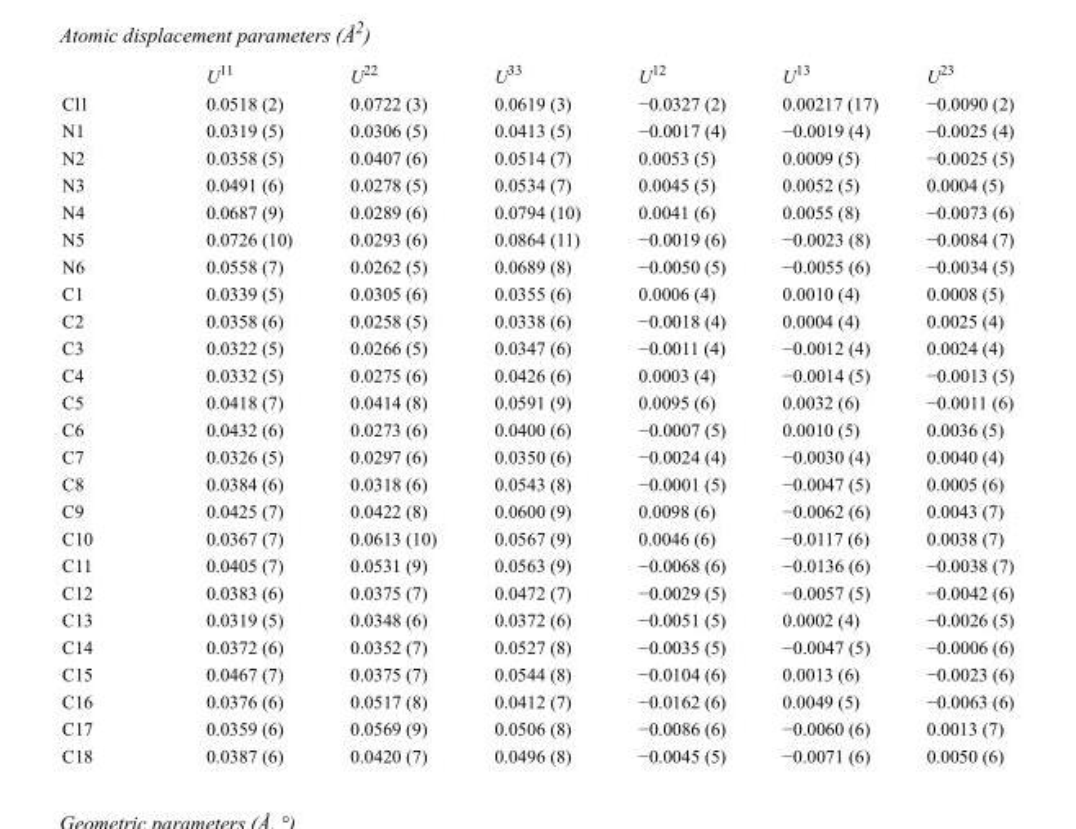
<table><thead><tr><td></td><td>U<sup>11</sup></td><td>U<sup>22</sup></td><td>U<sup>33</sup></td><td>U<sup>12</sup></td><td>U<sup>13</sup></td><td>U<sup>23</sup></td></tr></thead><tbody><tr><td>Cl1</td><td>0.0518 (2)</td><td>0.0722 (3)</td><td>0.0619 (3)</td><td>−0.0327 (2)</td><td>0.00217 (17)</td><td>−0.0090 (2)</td></tr><tr><td>N1</td><td>0.0319 (5)</td><td>0.0306 (5)</td><td>0.0413 (5)</td><td>−0.0017 (4)</td><td>−0.0019 (4)</td><td>−0.0025 (4)</td></tr><tr><td>N2</td><td>0.0358 (5)</td><td>0.0407 (6)</td><td>0.0514 (7)</td><td>0.0053 (5)</td><td>0.0009 (5)</td><td>−0.0025 (5)</td></tr><tr><td>N3</td><td>0.0491 (6)</td><td>0.0278 (5)</td><td>0.0534 (7)</td><td>0.0045 (5)</td><td>0.0052 (5)</td><td>0.0004 (5)</td></tr><tr><td>N4</td><td>0.0687 (9)</td><td>0.0289 (6)</td><td>0.0794 (10)</td><td>0.0041 (6)</td><td>0.0055 (8)</td><td>−0.0073 (6)</td></tr><tr><td>N5</td><td>0.0726 (10)</td><td>0.0293 (6)</td><td>0.0864 (11)</td><td>−0.0019 (6)</td><td>−0.0023 (8)</td><td>−0.0084 (7)</td></tr><tr><td>N6</td><td>0.0558 (7)</td><td>0.0262 (5)</td><td>0.0689 (8)</td><td>−0.0050 (5)</td><td>−0.0055 (6)</td><td>−0.0034 (5)</td></tr><tr><td>C1</td><td>0.0339 (5)</td><td>0.0305 (6)</td><td>0.0355 (6)</td><td>0.0006 (4)</td><td>0.0010 (4)</td><td>0.0008 (5)</td></tr><tr><td>C2</td><td>0.0358 (6)</td><td>0.0258 (5)</td><td>0.0338 (6)</td><td>−0.0018 (4)</td><td>0.0004 (4)</td><td>0.0025 (4)</td></tr><tr><td>C3</td><td>0.0322 (5)</td><td>0.0266 (5)</td><td>0.0347 (6)</td><td>−0.0011 (4)</td><td>−0.0012 (4)</td><td>0.0024 (4)</td></tr><tr><td>C4</td><td>0.0332 (5)</td><td>0.0275 (6)</td><td>0.0426 (6)</td><td>0.0003 (4)</td><td>−0.0014 (5)</td><td>−0.0013 (5)</td></tr><tr><td>C5</td><td>0.0418 (7)</td><td>0.0414 (8)</td><td>0.0591 (9)</td><td>0.0095 (6)</td><td>0.0032 (6)</td><td>−0.0011 (6)</td></tr><tr><td>C6</td><td>0.0432 (6)</td><td>0.0273 (6)</td><td>0.0400 (6)</td><td>−0.0007 (5)</td><td>0.0010 (5)</td><td>0.0036 (5)</td></tr><tr><td>C7</td><td>0.0326 (5)</td><td>0.0297 (6)</td><td>0.0350 (6)</td><td>−0.0024 (4)</td><td>−0.0030 (4)</td><td>0.0040 (4)</td></tr><tr><td>C8</td><td>0.0384 (6)</td><td>0.0318 (6)</td><td>0.0543 (8)</td><td>−0.0001 (5)</td><td>−0.0047 (5)</td><td>0.0005 (6)</td></tr><tr><td>C9</td><td>0.0425 (7)</td><td>0.0422 (8)</td><td>0.0600 (9)</td><td>0.0098 (6)</td><td>−0.0062 (6)</td><td>0.0043 (7)</td></tr><tr><td>C10</td><td>0.0367 (7)</td><td>0.0613 (10)</td><td>0.0567 (9)</td><td>0.0046 (6)</td><td>−0.0117 (6)</td><td>0.0038 (7)</td></tr><tr><td>C11</td><td>0.0405 (7)</td><td>0.0531 (9)</td><td>0.0563 (9)</td><td>−0.0068 (6)</td><td>−0.0136 (6)</td><td>−0.0038 (7)</td></tr><tr><td>C12</td><td>0.0383 (6)</td><td>0.0375 (7)</td><td>0.0472 (7)</td><td>−0.0029 (5)</td><td>−0.0057 (5)</td><td>−0.0042 (6)</td></tr><tr><td>C13</td><td>0.0319 (5)</td><td>0.0348 (6)</td><td>0.0372 (6)</td><td>−0.0051 (5)</td><td>0.0002 (4)</td><td>−0.0026 (5)</td></tr><tr><td>C14</td><td>0.0372 (6)</td><td>0.0352 (7)</td><td>0.0527 (8)</td><td>−0.0035 (5)</td><td>−0.0047 (5)</td><td>−0.0006 (6)</td></tr><tr><td>C15</td><td>0.0467 (7)</td><td>0.0375 (7)</td><td>0.0544 (8)</td><td>−0.0104 (6)</td><td>0.0013 (6)</td><td>−0.0023 (6)</td></tr><tr><td>C16</td><td>0.0376 (6)</td><td>0.0517 (8)</td><td>0.0412 (7)</td><td>−0.0162 (6)</td><td>0.0049 (5)</td><td>−0.0063 (6)</td></tr><tr><td>C17</td><td>0.0359 (6)</td><td>0.0569 (9)</td><td>0.0506 (8)</td><td>−0.0086 (6)</td><td>−0.0060 (6)</td><td>0.0013 (7)</td></tr><tr><td>C18</td><td>0.0387 (6)</td><td>0.0420 (7)</td><td>0.0496 (8)</td><td>−0.0045 (5)</td><td>−0.0071 (6)</td><td>0.0050 (6)</td></tr></tbody></table>